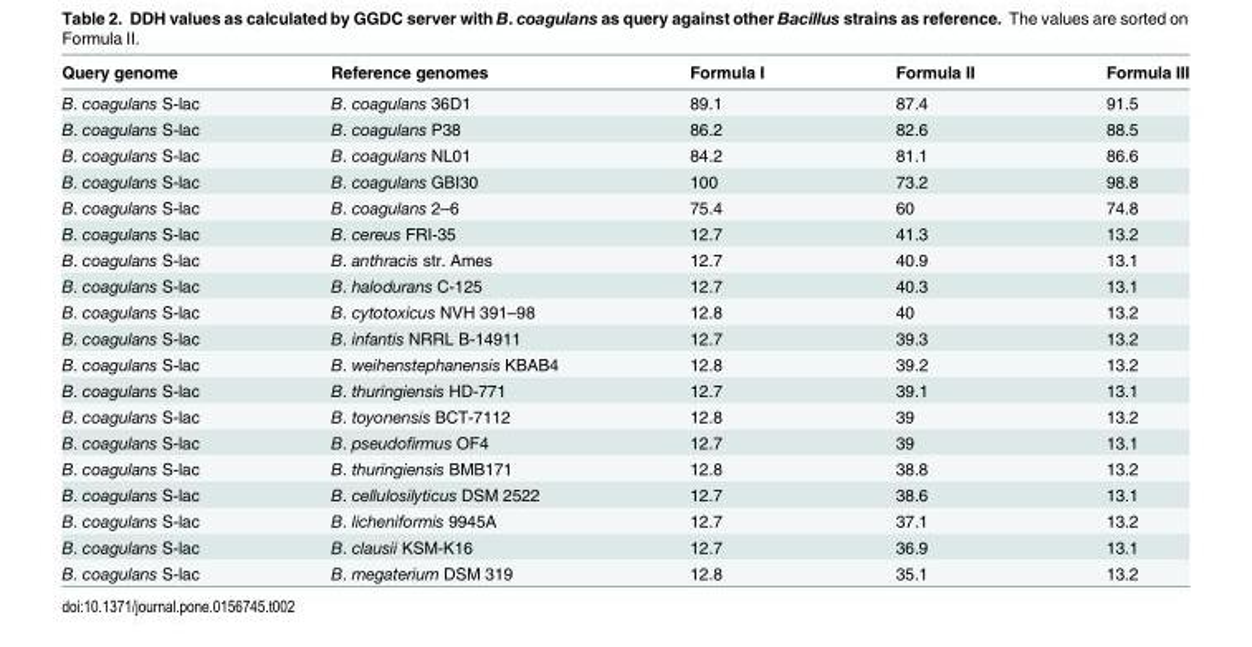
<table><thead><tr><td>Query genome</td><td>Reference genomes</td><td>Formula I</td><td>Formula II</td><td>Formula III</td></tr></thead><tbody><tr><td>B. coagulans S-lac</td><td>B. coagulans 36D1</td><td>89.1</td><td>87.4</td><td>91.5</td></tr><tr><td>B. coagulans S-lac</td><td>B. coagulans P38</td><td>86.2</td><td>82.6</td><td>88.5</td></tr><tr><td>B. coagulans S-lac</td><td>B. coagulans NL01</td><td>84.2</td><td>81.1</td><td>86.6</td></tr><tr><td>B. coagulans S-lac</td><td>B. coagulans GBI30</td><td>100</td><td>73.2</td><td>98.8</td></tr><tr><td>B. coagulans S-lac</td><td>B. coagulans 2–6</td><td>75.4</td><td>60</td><td>74.8</td></tr><tr><td>B. coagulans S-lac</td><td>B. cereus FRI-35</td><td>12.7</td><td>41.3</td><td>13.2</td></tr><tr><td>B. coagulans S-lac</td><td>B. anthracis str. Ames</td><td>12.7</td><td>40.9</td><td>13.1</td></tr><tr><td>B. coagulans S-lac</td><td>B. halodurans C-125</td><td>12.7</td><td>40.3</td><td>13.1</td></tr><tr><td>B. coagulans S-lac</td><td>B. cytotoxicus NVH 391–98</td><td>12.8</td><td>40</td><td>13.2</td></tr><tr><td>B. coagulans S-lac</td><td>B. infantis NRRL B-14911</td><td>12.7</td><td>39.3</td><td>13.2</td></tr><tr><td>B. coagulans S-lac</td><td>B. weihenstephanensis KBAB4</td><td>12.8</td><td>39.2</td><td>13.2</td></tr><tr><td>B. coagulans S-lac</td><td>B. thuringiensis HD-771</td><td>12.7</td><td>39.1</td><td>13.1</td></tr><tr><td>B. coagulans S-lac</td><td>B. toyonensis BCT-7112</td><td>12.8</td><td>39</td><td>13.2</td></tr><tr><td>B. coagulans S-lac</td><td>B. pseudofirmus OF4</td><td>12.7</td><td>39</td><td>13.1</td></tr><tr><td>B. coagulans S-lac</td><td>B. thuringiensis BMB171</td><td>12.8</td><td>38.8</td><td>13.2</td></tr><tr><td>B. coagulans S-lac</td><td>B. cellulosilyticus DSM 2522</td><td>12.7</td><td>38.6</td><td>13.1</td></tr><tr><td>B. coagulans S-lac</td><td>B. licheniformis 9945A</td><td>12.7</td><td>37.1</td><td>13.2</td></tr><tr><td>B. coagulans S-lac</td><td>B. clausii KSM-K16</td><td>12.7</td><td>36.9</td><td>13.1</td></tr><tr><td>B. coagulans S-lac</td><td>B. megaterium DSM 319</td><td>12.8</td><td>35.1</td><td>13.2</td></tr></tbody></table>